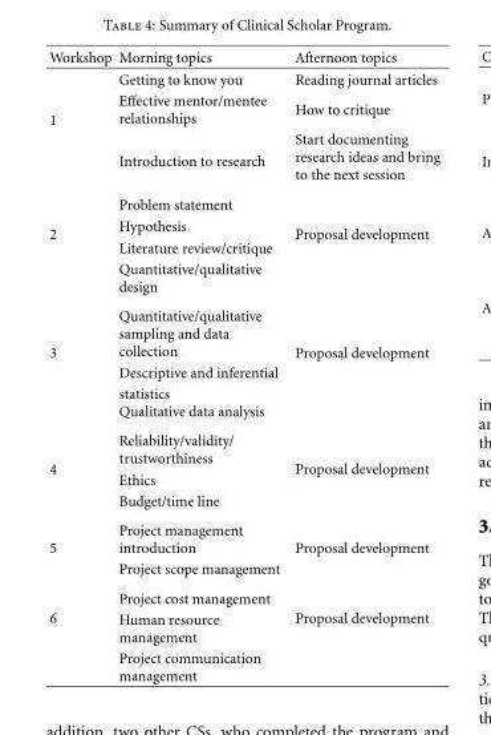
<table><thead><tr><td>Workshop</td><td>Morning topics</td><td>Afternoon topics</td></tr></thead><tbody><tr><td rowspan="3">1</td><td>Getting to know you</td><td>Reading journal articles</td></tr><tr><td>Effective mentor/mentee relationships</td><td>How to critique</td></tr><tr><td>Introduction to research</td><td>Start documenting research ideas and bring to the next session</td></tr><tr><td rowspan="4">2</td><td>Problem statement</td><td rowspan="4">Proposal development</td></tr><tr><td>Hypothesis</td></tr><tr><td>Literature review/critique</td></tr><tr><td>Quantitative/qualitative design</td></tr><tr><td rowspan="3">3</td><td>Quantitative/qualitative sampling and data collection</td><td rowspan="3">Proposal development</td></tr><tr><td>Descriptive and inferential</td></tr><tr><td>statistics Qualitative data analysis</td></tr><tr><td rowspan="3">4</td><td>Reliability/validity/ trustworthiness</td><td rowspan="3">Proposal development</td></tr><tr><td>Ethics</td></tr><tr><td>Budget/time line</td></tr><tr><td rowspan="2">5</td><td>Project management introduction</td><td rowspan="2">Proposal development</td></tr><tr><td>Project scope management</td></tr><tr><td rowspan="3">6</td><td>Project cost management</td><td rowspan="3">Proposal development</td></tr><tr><td>Human resource management</td></tr><tr><td>Project communication management</td></tr></tbody></table>